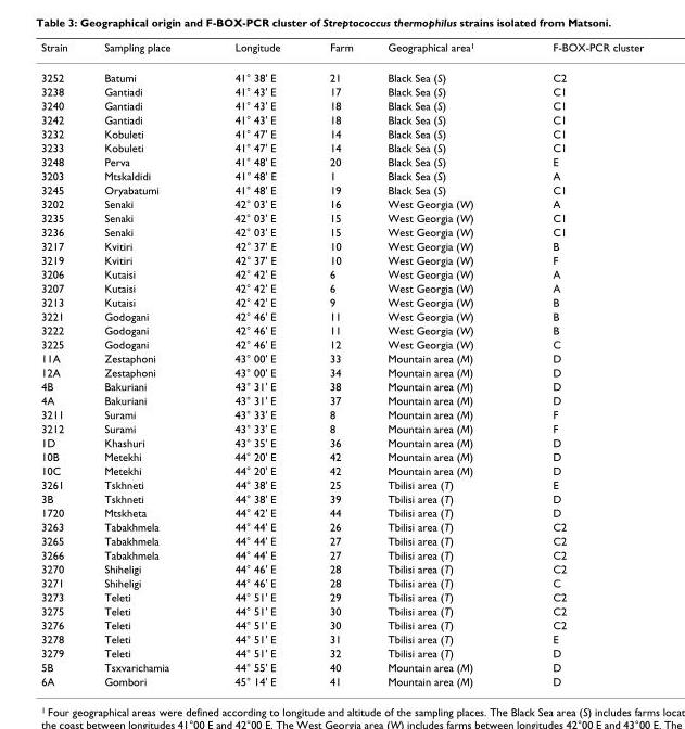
<table><thead><tr><td>Strain</td><td>Sampling place</td><td>Longitude</td><td>Farm</td><td>Geographical area<sup>1</sup></td><td>F-BOX-PCR cluster</td></tr></thead><tbody><tr><td>3252</td><td>Batumi</td><td>41° 38&#x27; E</td><td>21</td><td>Black Sea (S)</td><td>C2</td></tr><tr><td>3238</td><td>Gantiadi</td><td>41° 43&#x27; E</td><td>17</td><td>Black Sea (S)</td><td>C1</td></tr><tr><td>3240</td><td>Gantiadi</td><td>41° 43&#x27; E</td><td>18</td><td>Black Sea (S)</td><td>C1</td></tr><tr><td>3242</td><td>Gantiadi</td><td>41° 43&#x27; E</td><td>18</td><td>Black Sea (S)</td><td>C1</td></tr><tr><td>3232</td><td>Kobuleti</td><td>41° 47&#x27; E</td><td>14</td><td>Black Sea (S)</td><td>C1</td></tr><tr><td>3233</td><td>Kobuleti</td><td>41° 47&#x27; E</td><td>14</td><td>Black Sea (S)</td><td>C1</td></tr><tr><td>3248</td><td>Perva</td><td>41° 48&#x27; E</td><td>20</td><td>Black Sea (S)</td><td>E</td></tr><tr><td>3203</td><td>Mtskaldidi</td><td>41° 48&#x27; E</td><td>1</td><td>Black Sea (S)</td><td>A</td></tr><tr><td>3245</td><td>Oryabatumi</td><td>41° 48&#x27; E</td><td>19</td><td>Black Sea (S)</td><td>C1</td></tr><tr><td>3202</td><td>Senaki</td><td>42° 03&#x27; E</td><td>16</td><td>West Georgia (W)</td><td>A</td></tr><tr><td>3235</td><td>Senaki</td><td>42° 03&#x27; E</td><td>15</td><td>West Georgia (W)</td><td>C1</td></tr><tr><td>3236</td><td>Senaki</td><td>42° 03&#x27; E</td><td>15</td><td>West Georgia (W)</td><td>C1</td></tr><tr><td>3217</td><td>Kvitiri</td><td>42° 37&#x27; E</td><td>10</td><td>West Georgia (W)</td><td>B</td></tr><tr><td>3219</td><td>Kvitiri</td><td>42° 37&#x27; E</td><td>10</td><td>West Georgia (W)</td><td>F</td></tr><tr><td>3206</td><td>Kutaisi</td><td>42° 42&#x27; E</td><td>6</td><td>West Georgia (W)</td><td>A</td></tr><tr><td>3207</td><td>Kutaisi</td><td>42° 42&#x27; E</td><td>6</td><td>West Georgia (W)</td><td>A</td></tr><tr><td>3213</td><td>Kutaisi</td><td>42° 42&#x27; E</td><td>9</td><td>West Georgia (W)</td><td>B</td></tr><tr><td>3221</td><td>Godogani</td><td>42° 46&#x27; E</td><td>11</td><td>West Georgia (W)</td><td>B</td></tr><tr><td>3222</td><td>Godogani</td><td>42° 46&#x27; E</td><td>11</td><td>West Georgia (W)</td><td>B</td></tr><tr><td>3225</td><td>Godogani</td><td>42° 46&#x27; E</td><td>12</td><td>West Georgia (W)</td><td>C</td></tr><tr><td>11A</td><td>Zestaphoni</td><td>43° 00&#x27; E</td><td>33</td><td>Mountain area (M)</td><td>D</td></tr><tr><td>12A</td><td>Zestaphoni</td><td>43° 00&#x27; E</td><td>34</td><td>Mountain area (M)</td><td>D</td></tr><tr><td>4B</td><td>Bakuriani</td><td>43° 31&#x27; E</td><td>38</td><td>Mountain area (M)</td><td>D</td></tr><tr><td>4A</td><td>Bakuriani</td><td>43° 31&#x27; E</td><td>37</td><td>Mountain area (M)</td><td>D</td></tr><tr><td>3211</td><td>Surami</td><td>43° 33&#x27; E</td><td>8</td><td>Mountain area (M)</td><td>F</td></tr><tr><td>3212</td><td>Surami</td><td>43° 33&#x27; E</td><td>8</td><td>Mountain area (M)</td><td>F</td></tr><tr><td>1D</td><td>Khashuri</td><td>43° 35&#x27; E</td><td>36</td><td>Mountain area (M)</td><td>D</td></tr><tr><td>10B</td><td>Metekhi</td><td>44° 20&#x27; E</td><td>42</td><td>Mountain area (M)</td><td>D</td></tr><tr><td>10C</td><td>Metekhi</td><td>44° 20&#x27; E</td><td>42</td><td>Mountain area (M)</td><td>D</td></tr><tr><td>3261</td><td>Tskhneti</td><td>44° 38&#x27; E</td><td>25</td><td>Tbilisi area (T)</td><td>E</td></tr><tr><td>3B</td><td>Tskhneti</td><td>44° 38&#x27; E</td><td>39</td><td>Tbilisi area (T)</td><td>D</td></tr><tr><td>1720</td><td>Mtskheta</td><td>44° 42&#x27; E</td><td>44</td><td>Tbilisi area (T)</td><td>D</td></tr><tr><td>3263</td><td>Tabakhmela</td><td>44° 44&#x27; E</td><td>26</td><td>Tbilisi area (T)</td><td>C2</td></tr><tr><td>3265</td><td>Tabakhmela</td><td>44° 44&#x27; E</td><td>27</td><td>Tbilisi area (T)</td><td>C2</td></tr><tr><td>3266</td><td>Tabakhmela</td><td>44° 44&#x27; E</td><td>27</td><td>Tbilisi area (T)</td><td>C2</td></tr><tr><td>3270</td><td>Shiheligi</td><td>44° 46&#x27; E</td><td>28</td><td>Tbilisi area (T)</td><td>C2</td></tr><tr><td>3271</td><td>Shiheligi</td><td>44° 46&#x27; E</td><td>28</td><td>Tbilisi area (T)</td><td>C</td></tr><tr><td>3273</td><td>Teleti</td><td>44° 51&#x27; E</td><td>29</td><td>Tbilisi area (T)</td><td>C2</td></tr><tr><td>3275</td><td>Teleti</td><td>44° 51&#x27; E</td><td>30</td><td>Tbilisi area (T)</td><td>C2</td></tr><tr><td>3276</td><td>Teleti</td><td>44° 51&#x27; E</td><td>30</td><td>Tbilisi area (T)</td><td>C2</td></tr><tr><td>3278</td><td>Teleti</td><td>44° 51&#x27; E</td><td>31</td><td>Tbilisi area (T)</td><td>E</td></tr><tr><td>3279</td><td>Teleti</td><td>44° 51&#x27; E</td><td>32</td><td>Tbilisi area (T)</td><td>D</td></tr><tr><td>5B</td><td>Tsxvarichamia</td><td>44° 55&#x27; E</td><td>40</td><td>Mountain area (M)</td><td>D</td></tr><tr><td>6A</td><td>Gombori</td><td>45° 14&#x27; E</td><td>41</td><td>Mountain area (M)</td><td>D</td></tr></tbody></table>